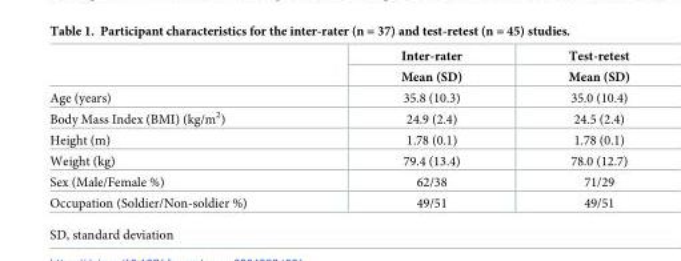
<table><thead><tr><td rowspan="2"></td><td rowspan="2">Inter-rater Mean (SD)</td><td rowspan="2">Test-retest Mean (SD)</td></tr><tr></tr></thead><tbody><tr><td>Age (years)</td><td>35.8 (10.3)</td><td>35.0 (10.4)</td></tr><tr><td>Body Mass Index (BMI) (kg/m<sup>2</sup>)</td><td>24.9 (2.4)</td><td>24.5 (2.4)</td></tr><tr><td>Height (m)</td><td>1.78 (0.1)</td><td>1.78 (0.1)</td></tr><tr><td>Weight (kg)</td><td>79.4 (13.4)</td><td>78.0 (12.7)</td></tr><tr><td>Sex (Male/Female %)</td><td>62/38</td><td>71/29</td></tr><tr><td>Occupation (Soldier/Non-soldier %)</td><td>49/51</td><td>49/51</td></tr></tbody></table>